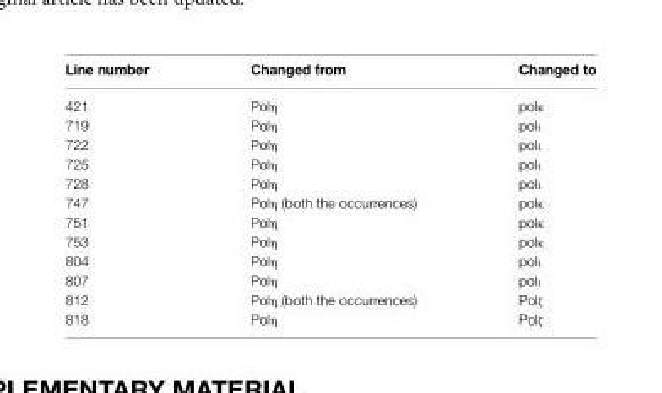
<table><thead><tr><td>Line number</td><td>Changed from</td><td>Changed to</td></tr></thead><tbody><tr><td>421</td><td>Polη</td><td>polκ</td></tr><tr><td>719</td><td>Polη</td><td>polι</td></tr><tr><td>722</td><td>Polη</td><td>polι</td></tr><tr><td>725</td><td>Polη</td><td>polι</td></tr><tr><td>728</td><td>Polη</td><td>polι</td></tr><tr><td>747</td><td>Polη (both the occurrences)</td><td>polκ</td></tr><tr><td>751</td><td>Polη</td><td>polκ</td></tr><tr><td>753</td><td>Polη</td><td>polκ</td></tr><tr><td>804</td><td>Polη</td><td>polι</td></tr><tr><td>807</td><td>Polη</td><td>polι</td></tr><tr><td>812</td><td>Polη (both the occurrences)</td><td>Polζ</td></tr><tr><td>818</td><td>Polη</td><td>Polζ</td></tr></tbody></table>